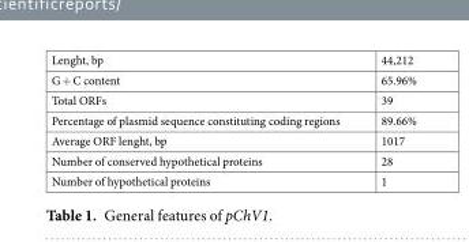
<table><tbody><tr><td>Lenght, bp</td><td>44,212</td></tr><tr><td>G + C content</td><td>65.96%</td></tr><tr><td>Total ORFs</td><td>39</td></tr><tr><td>Percentage of plasmid sequence constituting coding regions</td><td>89.66%</td></tr><tr><td>Average ORF lenght, bp</td><td>1017</td></tr><tr><td>Number of conserved hypothetical proteins</td><td>28</td></tr><tr><td>Number of hypothetical proteins</td><td>1</td></tr></tbody></table>